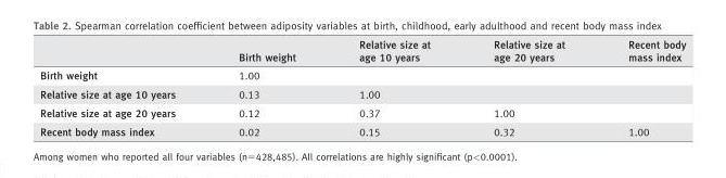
<table><thead><tr><td></td><td>Birth weight</td><td>Relative size at age 10 years</td><td>Relative size at age 20 years</td><td>Recent body mass index</td></tr></thead><tbody><tr><td>Birth weight</td><td>1.00</td><td></td><td></td><td></td></tr><tr><td>Relative size at age 10 years</td><td>0.13</td><td>1.00</td><td></td><td></td></tr><tr><td>Relative size at age 20 years</td><td>0.12</td><td>0.37</td><td>1.00</td><td></td></tr><tr><td>Recent body mass index</td><td>0.02</td><td>0.15</td><td>0.32</td><td>1.00</td></tr></tbody></table>